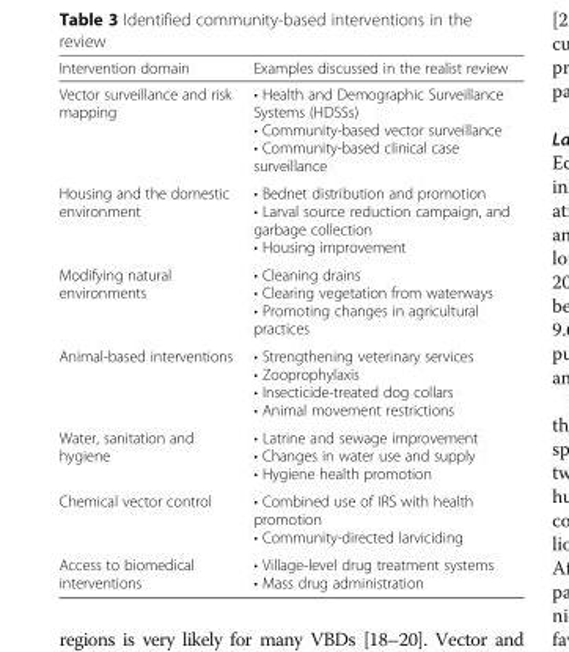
<table><thead><tr><td>Intervention domain</td><td>Examples discussed in the realist review</td></tr></thead><tbody><tr><td>Vector surveillance and risk mapping</td><td>• Health and Demographic Surveillance Systems (HDSSs) • Community-based vector surveillance • Community-based clinical case surveillance</td></tr><tr><td>Housing and the domestic environment</td><td>• Bednet distribution and promotion • Larval source reduction campaign, and garbage collection • Housing improvement</td></tr><tr><td>Modifying natural environments</td><td>• Cleaning drains • Clearing vegetation from waterways • Promoting changes in agricultural practices</td></tr><tr><td>Animal-based interventions</td><td>• Strengthening veterinary services • Zooprophylaxis • Insecticide-treated dog collars • Animal movement restrictions</td></tr><tr><td>Water, sanitation and hygiene</td><td>• Latrine and sewage improvement • Changes in water use and supply • Hygiene health promotion</td></tr><tr><td>Chemical vector control</td><td>• Combined use of IRS with health promotion • Community-directed larviciding</td></tr><tr><td>Access to biomedical interventions</td><td>• Village-level drug treatment systems • Mass drug administration</td></tr></tbody></table>